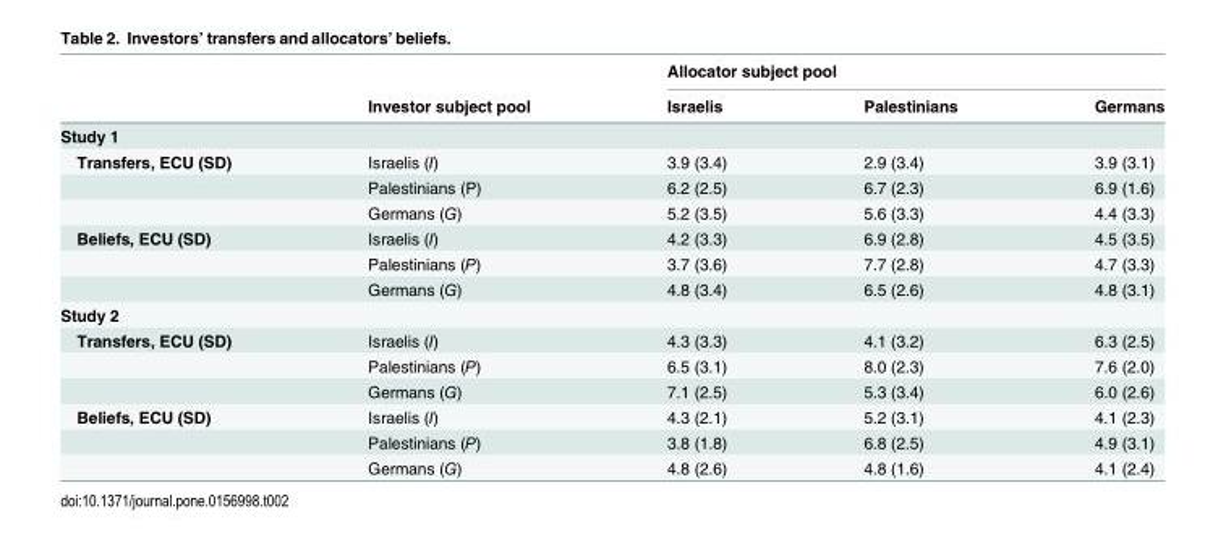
<table><thead><tr><td rowspan="2"></td><td rowspan="2">Investor subject pool</td><td colspan="3">Allocator subject pool</td></tr><tr><td>Israelis</td><td>Palestinians</td><td>Germans</td></tr></thead><tbody><tr><td colspan="5">Study 1</td></tr><tr><td rowspan="3">Transfers, ECU (SD)</td><td>Israelis (I)</td><td>3.9 (3.4)</td><td>2.9 (3.4)</td><td>3.9 (3.1)</td></tr><tr><td>Palestinians (P)</td><td>6.2 (2.5)</td><td>6.7 (2.3)</td><td>6.9 (1.6)</td></tr><tr><td>Germans (G)</td><td>5.2 (3.5)</td><td>5.6 (3.3)</td><td>4.4 (3.3)</td></tr><tr><td rowspan="3">Beliefs, ECU (SD)</td><td>Israelis (I)</td><td>4.2 (3.3)</td><td>6.9 (2.8)</td><td>4.5 (3.5)</td></tr><tr><td>Palestinians (P)</td><td>3.7 (3.6)</td><td>7.7 (2.8)</td><td>4.7 (3.3)</td></tr><tr><td>Germans (G)</td><td>4.8 (3.4)</td><td>6.5 (2.6)</td><td>4.8 (3.1)</td></tr><tr><td colspan="5">Study 2</td></tr><tr><td rowspan="3">Transfers, ECU (SD)</td><td>Israelis (I)</td><td>4.3 (3.3)</td><td>4.1 (3.2)</td><td>6.3 (2.5)</td></tr><tr><td>Palestinians (P)</td><td>6.5 (3.1)</td><td>8.0 (2.3)</td><td>7.6 (2.0)</td></tr><tr><td>Germans (G)</td><td>7.1 (2.5)</td><td>5.3 (3.4)</td><td>6.0 (2.6)</td></tr><tr><td rowspan="3">Beliefs, ECU (SD)</td><td>Israelis (I)</td><td>4.3 (2.1)</td><td>5.2 (3.1)</td><td>4.1 (2.3)</td></tr><tr><td>Palestinians (P)</td><td>3.8 (1.8)</td><td>6.8 (2.5)</td><td>4.9 (3.1)</td></tr><tr><td>Germans (G)</td><td>4.8 (2.6)</td><td>4.8 (1.6)</td><td>4.1 (2.4)</td></tr></tbody></table>